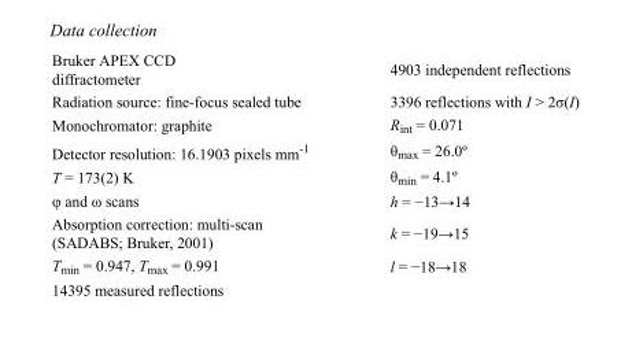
<table><tbody><tr><td>Bruker APEX CCD diffractometer</td><td>4903 independent reflections</td></tr><tr><td>Radiation source: fine-focus sealed tube</td><td>3396 reflections with I &gt; 2σ(I)</td></tr><tr><td>Monochromator: graphite</td><td>R<sub>int</sub> = 0.071</td></tr><tr><td>Detector resolution: 16.1903 pixels mm<sup>-1</sup></td><td>θ<sub>max</sub> = 26.0º</td></tr><tr><td>T = 173(2) K</td><td>θ<sub>min</sub> = 4.1º</td></tr><tr><td>φ and ω scans</td><td>h = −13→14</td></tr><tr><td>Absorption correction: multi-scan (SADABS; Bruker, 2001)</td><td>k = −19→15</td></tr><tr><td>T<sub>min</sub> = 0.947, T<sub>max</sub> = 0.991</td><td>l = −18→18</td></tr><tr><td>14395 measured reflections</td><td></td></tr></tbody></table>